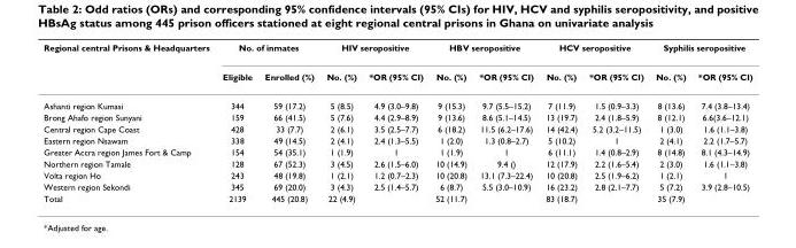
<table><thead><tr><td rowspan="2">Regional central Prisons &amp; Headquarters</td><td colspan="2">No. of inmates</td><td colspan="2">HIV seropositive</td><td colspan="2">HBV seropositive</td><td colspan="2">HCV seropositive</td><td colspan="2">Syphilis seropositive</td></tr><tr><td>Eligible</td><td>Enrolled (%)</td><td>No. (%)</td><td>*OR (95% CI)</td><td>No. (%)</td><td>*OR (95% CI)</td><td>No. (%)</td><td>*OR (95% CI)</td><td>No. (%)</td><td>*OR (95% CI)</td></tr></thead><tbody><tr><td>Ashanti region Kumasi</td><td>344</td><td>59 (17.2)</td><td>5 (8.5)</td><td>4.9 (3.0–9.8)</td><td>9 (15.3)</td><td>9.7 (5.5–15.2)</td><td>7 (11.9)</td><td>1.5 (0.9–3.3)</td><td>8 (13.6)</td><td>7.4 (3.8–13.4)</td></tr><tr><td>Brong Ahafo region Sunyani</td><td>159</td><td>66 (41.5)</td><td>5 (7.6)</td><td>4.4 (2.9–8.9)</td><td>9 (13.6)</td><td>8.6 (5.1–14.5)</td><td>13 (19.7)</td><td>2.4 (1.8–5.9)</td><td>8 (12.1)</td><td>6.6(3.6–12.1)</td></tr><tr><td>Central region Cape Coast</td><td>428</td><td>33 (7.7)</td><td>2 (6.1)</td><td>3.5 (2.5–7.7)</td><td>6 (18.2)</td><td>11.5 (6.2–17.6)</td><td>14 (42.4)</td><td>5.2 (3.2–11.5)</td><td>1 (3.0)</td><td>1.6 (1.1–3.8)</td></tr><tr><td>Eastern region Nsawam</td><td>338</td><td>49 (14.5)</td><td>2 (4.1)</td><td>2.4 (1.3–5.5)</td><td>1 (2.0)</td><td>1.3 (0.8–2.7)</td><td>5 (10.2)</td><td>1</td><td>2 (4.1)</td><td>2.2 (1.7–5.7)</td></tr><tr><td>Greater Accra region James Fort &amp; Camp</td><td>154</td><td>54 (35.1)</td><td>1 (1.9)</td><td>1</td><td>1 (1.9)</td><td>1</td><td>6 (11.1)</td><td>1.4 (0.8–2.9)</td><td>8 (14.8)</td><td>8.1 (4.3–14.9)</td></tr><tr><td>Northern region Tamale</td><td>128</td><td>67 (52.3)</td><td>3 (4.5)</td><td>2.6 (1.5–6.0)</td><td>10 (14.9)</td><td>9.4 ()</td><td>12 (17.9)</td><td>2.2 (1.6–5.4)</td><td>2 (3.0)</td><td>1.6 (1.1–3.8)</td></tr><tr><td>Volta region Ho</td><td>243</td><td>48 (19.8)</td><td>1 (2.1)</td><td>1.2 (0.7–2.3)</td><td>10 (20.8)</td><td>13.1 (7.3–22.4)</td><td>10 (20.8)</td><td>2.5 (1.9–6.2)</td><td>1 (2.1)</td><td>1</td></tr><tr><td>Western region Sekondi</td><td>345</td><td>69 (20.0)</td><td>3 (4.3)</td><td>2.5 (1.4–5.7)</td><td>6 (8.7)</td><td>5.5 (3.0–10.9)</td><td>16 (23.2)</td><td>2.8 (2.1–7.7)</td><td>5 (7.2)</td><td>3.9 (2.8–10.5)</td></tr><tr><td>Total</td><td>2139</td><td>445 (20.8)</td><td>22 (4.9)</td><td></td><td>52 (11.7)</td><td></td><td>83 (18.7)</td><td></td><td>35 (7.9)</td><td></td></tr></tbody></table>